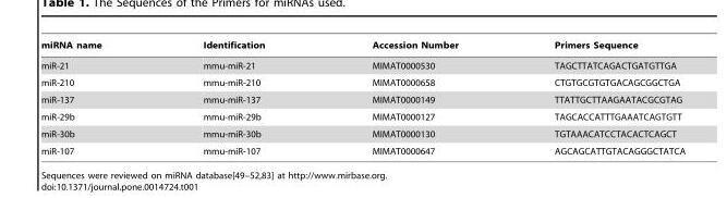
<table><thead><tr><td>miRNA name</td><td>Identification</td><td>Accession Number</td><td>Primers Sequence</td></tr></thead><tbody><tr><td>miR-21</td><td>mmu-miR-21</td><td>MIMAT0000530</td><td>TAGCTTATCAGACTGATGTTGA</td></tr><tr><td>miR-210</td><td>mmu-miR-210</td><td>MIMAT0000658</td><td>CTGTGCGTGTGACAGCGGCTGA</td></tr><tr><td>miR-137</td><td>mmu-miR-137</td><td>MIMAT0000149</td><td>TTATTGCTTAAGAATACGCGTAG</td></tr><tr><td>miR-29b</td><td>mmu-miR-29b</td><td>MIMAT0000127</td><td>TAGCACCATTTGAAATCAGTGTT</td></tr><tr><td>miR-30b</td><td>mmu-miR-30b</td><td>MIMAT0000130</td><td>TGTAAACATCCTACACTCAGCT</td></tr><tr><td>miR-107</td><td>mmu-miR-107</td><td>MIMAT0000647</td><td>AGCAGCATTGTACAGGGCTATCA</td></tr></tbody></table>